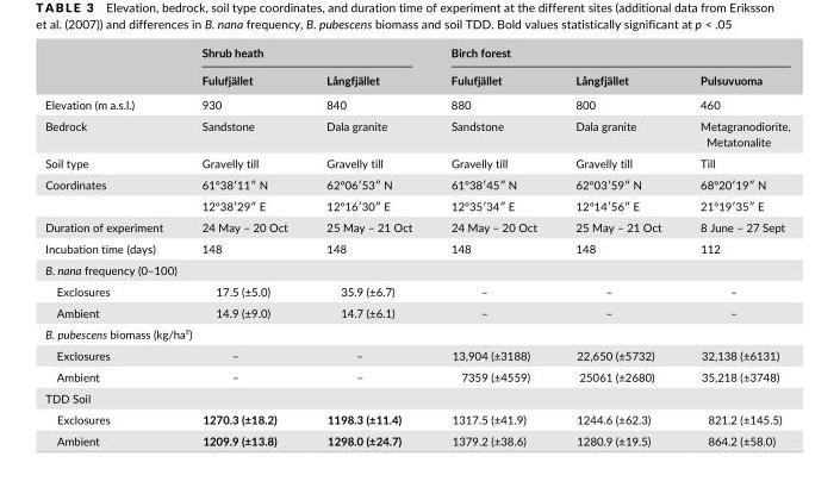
<table><thead><tr><td rowspan="2"></td><td colspan="2">Shrub heath</td><td colspan="3">Birch forest</td></tr><tr><td>Fulufjället</td><td>Långfjället</td><td>Fulufjället</td><td>Långfjället</td><td>Pulsuvuoma</td></tr></thead><tbody><tr><td>Elevation (m a.s.l.)</td><td>930</td><td>840</td><td>880</td><td>800</td><td>460</td></tr><tr><td>Bedrock</td><td>Sandstone</td><td>Dala granite</td><td>Sandstone</td><td>Dala granite</td><td>Metagranodiorite, Metatonalite</td></tr><tr><td>Soil type</td><td>Gravelly till</td><td>Gravelly till</td><td>Gravelly till</td><td>Gravelly till</td><td>Till</td></tr><tr><td rowspan="2">Coordinates</td><td>61°38′11″ N</td><td>62°06′53″ N</td><td>61°38′45″ N</td><td>62°03′59″ N</td><td>68°20′19″ N</td></tr><tr><td>12°38′29″ E</td><td>12°16′30″ E</td><td>12°35′34″ E</td><td>12°14′56″ E</td><td>21°19′35″ E</td></tr><tr><td>Duration of experiment</td><td>24 May – 20 Oct</td><td>25 May – 21 Oct</td><td>24 May – 20 Oct</td><td>25 May – 21 Oct</td><td>8 June – 27 Sept</td></tr><tr><td>Incubation time (days)</td><td>148</td><td>148</td><td>148</td><td>148</td><td>112</td></tr><tr><td colspan="6">B. nana frequency (0–100)</td></tr><tr><td>Exclosures</td><td>17.5 (±5.0)</td><td>35.9 (±6.7)</td><td>–</td><td>–</td><td>–</td></tr><tr><td>Ambient</td><td>14.9 (±9.0)</td><td>14.7 (±6.1)</td><td>–</td><td>–</td><td>–</td></tr><tr><td colspan="6">B. pubescens biomass (kg/ha²)</td></tr><tr><td>Exclosures</td><td>–</td><td>–</td><td>13,904 (±3188)</td><td>22,650 (±5732)</td><td>32,138 (±6131)</td></tr><tr><td>Ambient</td><td>–</td><td>–</td><td>7359 (±4559)</td><td>25061 (±2680)</td><td>35,218 (±3748)</td></tr><tr><td colspan="6">TDD Soil</td></tr><tr><td>Exclosures</td><td>1270.3 (±18.2)</td><td>1198.3 (±11.4)</td><td>1317.5 (±41.9)</td><td>1244.6 (±62.3)</td><td>821.2 (±145.5)</td></tr><tr><td>Ambient</td><td>1209.9 (±13.8)</td><td>1298.0 (±24.7)</td><td>1379.2 (±38.6)</td><td>1280.9 (±19.5)</td><td>864.2 (±58.0)</td></tr></tbody></table>